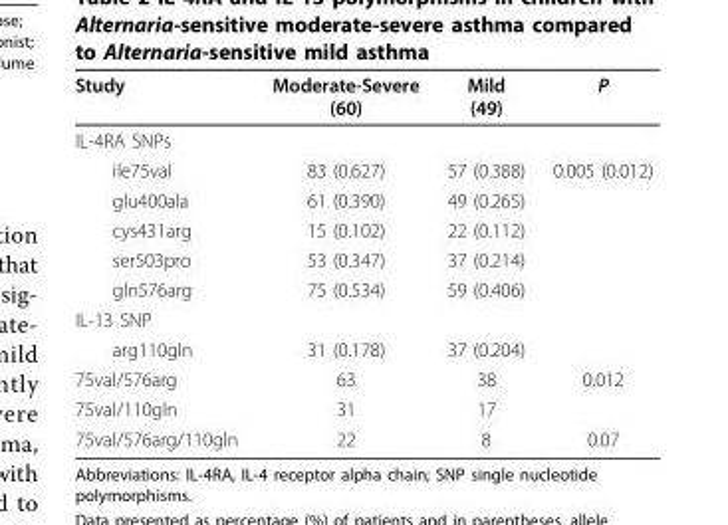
<table><thead><tr><td>Study</td><td>Moderate-Severe (60)</td><td>Mild (49)</td><td>P</td></tr></thead><tbody><tr><td colspan="4">IL-4RA SNPs</td></tr><tr><td>ile75val</td><td>83 (0.627)</td><td>57 (0.388)</td><td>0.005 (0.012)</td></tr><tr><td>glu400ala</td><td>61 (0.390)</td><td>49 (0.265)</td><td></td></tr><tr><td>cys431arg</td><td>15 (0.102)</td><td>22 (0.112)</td><td></td></tr><tr><td>ser503pro</td><td>53 (0.347)</td><td>37 (0.214)</td><td></td></tr><tr><td>gln576arg</td><td>75 (0.534)</td><td>59 (0.406)</td><td></td></tr><tr><td colspan="4">IL-13 SNP</td></tr><tr><td>arg110gln</td><td>31 (0.178)</td><td>37 (0.204)</td><td></td></tr><tr><td>75val/576arg</td><td>63</td><td>38</td><td>0.012</td></tr><tr><td>75val/110gln</td><td>31</td><td>17</td><td></td></tr><tr><td>75val/576arg/110gln</td><td>22</td><td>8</td><td>0.07</td></tr></tbody></table>